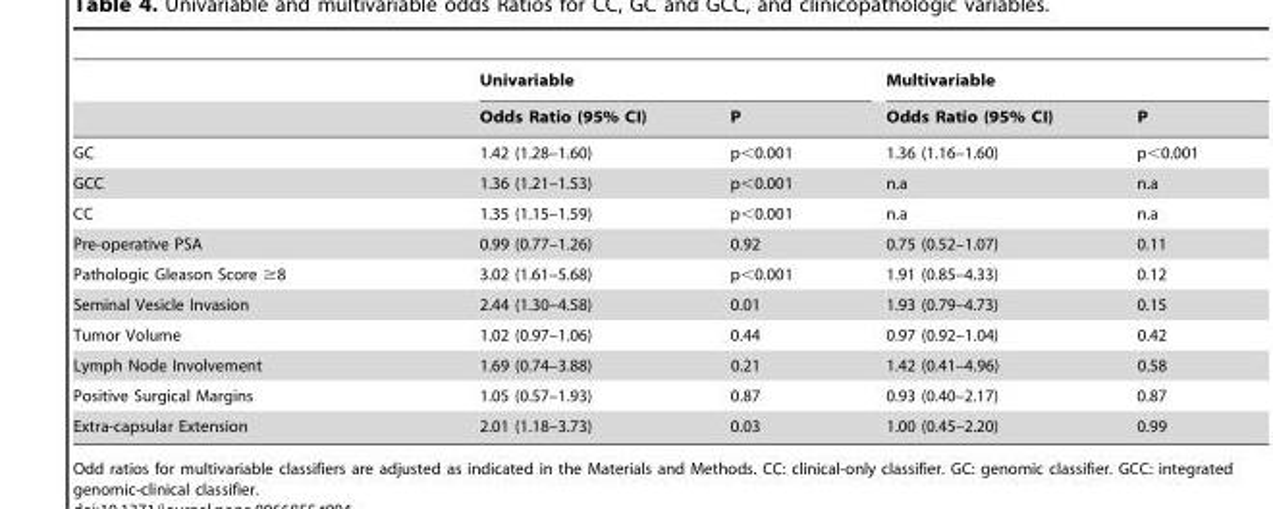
<table><thead><tr><td rowspan="2"></td><td colspan="2">Univariable</td><td colspan="2">Multivariable</td></tr><tr><td>Odds Ratio (95% CI)</td><td>P</td><td>Odds Ratio (95% CI)</td><td>P</td></tr></thead><tbody><tr><td>GC</td><td>1.42 (1.28–1.60)</td><td>p&lt;0.001</td><td>1.36 (1.16–1.60)</td><td>p&lt;0.001</td></tr><tr><td>GCC</td><td>1.36 (1.21–1.53)</td><td>p&lt;0.001</td><td>n.a</td><td>n.a</td></tr><tr><td>CC</td><td>1.35 (1.15–1.59)</td><td>p&lt;0.001</td><td>n.a</td><td>n.a</td></tr><tr><td>Pre-operative PSA</td><td>0.99 (0.77–1.26)</td><td>0.92</td><td>0.75 (0.52–1.07)</td><td>0.11</td></tr><tr><td>Pathologic Gleason Score ≥8</td><td>3.02 (1.61–5.68)</td><td>p&lt;0.001</td><td>1.91 (0.85–4.33)</td><td>0.12</td></tr><tr><td>Seminal Vesicle Invasion</td><td>2.44 (1.30–4.58)</td><td>0.01</td><td>1.93 (0.79–4.73)</td><td>0.15</td></tr><tr><td>Tumor Volume</td><td>1.02 (0.97–1.06)</td><td>0.44</td><td>0.97 (0.92–1.04)</td><td>0.42</td></tr><tr><td>Lymph Node Involvement</td><td>1.69 (0.74–3.88)</td><td>0.21</td><td>1.42 (0.41–4.96)</td><td>0.58</td></tr><tr><td>Positive Surgical Margins</td><td>1.05 (0.57–1.93)</td><td>0.87</td><td>0.93 (0.40–2.17)</td><td>0.87</td></tr><tr><td>Extra-capsular Extension</td><td>2.01 (1.18–3.73)</td><td>0.03</td><td>1.00 (0.45–2.20)</td><td>0.99</td></tr></tbody></table>